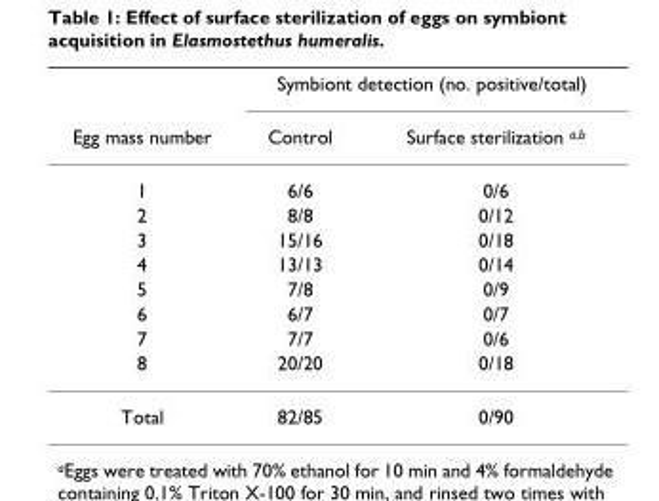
<table><thead><tr><td rowspan="2">Egg mass number</td><td colspan="2">Symbiont detection (no. positive/total)</td></tr><tr><td>Control</td><td>Surface sterilization <sup>a,b</sup></td></tr></thead><tbody><tr><td>1</td><td>6/6</td><td>0/6</td></tr><tr><td>2</td><td>8/8</td><td>0/12</td></tr><tr><td>3</td><td>15/16</td><td>0/18</td></tr><tr><td>4</td><td>13/13</td><td>0/14</td></tr><tr><td>5</td><td>7/8</td><td>0/9</td></tr><tr><td>6</td><td>6/7</td><td>0/7</td></tr><tr><td>7</td><td>7/7</td><td>0/6</td></tr><tr><td>8</td><td>20/20</td><td>0/18</td></tr><tr><td>Total</td><td>82/85</td><td>0/90</td></tr></tbody></table>